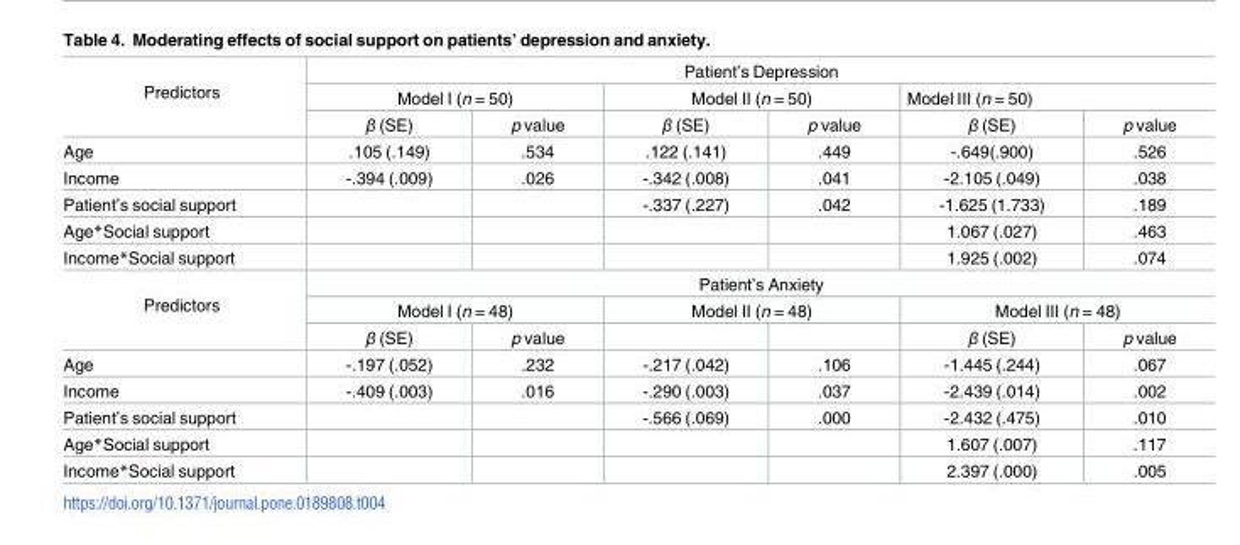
<table><tbody><tr><td rowspan="3">Predictors</td><td colspan="6">Patient’s Depression</td></tr><tr><td colspan="2">Model I (n = 50)</td><td colspan="2">Model II (n = 50)</td><td colspan="2">Model III (n = 50)</td></tr><tr><td>β (SE)</td><td>p value</td><td>β (SE)</td><td>p value</td><td>β (SE)</td><td>p value</td></tr><tr><td>Age</td><td>.105 (.149)</td><td>.534</td><td>.122 (.141)</td><td>.449</td><td>-.649(.900)</td><td>.526</td></tr><tr><td>Income</td><td>-.394 (.009)</td><td>.026</td><td>-.342 (.008)</td><td>.041</td><td>-2.105 (.049)</td><td>.038</td></tr><tr><td>Patient’s social support</td><td></td><td></td><td>-.337 (.227)</td><td>.042</td><td>-1.625 (1.733)</td><td>.189</td></tr><tr><td>Age*Social support</td><td></td><td></td><td></td><td></td><td>1.067 (.027)</td><td>.463</td></tr><tr><td>Income*Social support</td><td></td><td></td><td></td><td></td><td>1.925 (.002)</td><td>.074</td></tr><tr><td rowspan="3">Predictors</td><td colspan="6">Patient’s Anxiety</td></tr><tr><td colspan="2">Model I (n = 48)</td><td colspan="2">Model II (n = 48)</td><td colspan="2">Model III (n = 48)</td></tr><tr><td>β (SE)</td><td>p value</td><td></td><td></td><td>β (SE)</td><td>p value</td></tr><tr><td>Age</td><td>-.197 (.052)</td><td>.232</td><td>-.217 (.042)</td><td>.106</td><td>-1.445 (.244)</td><td>.067</td></tr><tr><td>Income</td><td>-.409 (.003)</td><td>.016</td><td>-.290 (.003)</td><td>.037</td><td>-2.439 (.014)</td><td>.002</td></tr><tr><td>Patient’s social support</td><td></td><td></td><td>-.566 (.069)</td><td>.000</td><td>-2.432 (.475)</td><td>.010</td></tr><tr><td>Age*Social support</td><td></td><td></td><td></td><td></td><td>1.607 (.007)</td><td>.117</td></tr><tr><td>Income*Social support</td><td></td><td></td><td></td><td></td><td>2.397 (.000)</td><td>.005</td></tr></tbody></table>